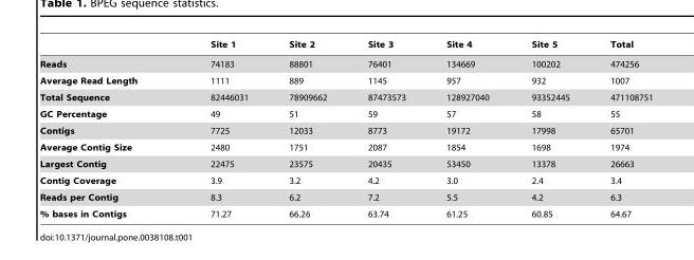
<table><thead><tr><td></td><td>Site 1</td><td>Site 2</td><td>Site 3</td><td>Site 4</td><td>Site 5</td><td>Total</td></tr></thead><tbody><tr><td>Reads</td><td>74183</td><td>88801</td><td>76401</td><td>134669</td><td>100202</td><td>474256</td></tr><tr><td>Average Read Length</td><td>1111</td><td>889</td><td>1145</td><td>957</td><td>932</td><td>1007</td></tr><tr><td>Total Sequence</td><td>82446031</td><td>78909662</td><td>87473573</td><td>128927040</td><td>93352445</td><td>471108751</td></tr><tr><td>GC Percentage</td><td>49</td><td>51</td><td>59</td><td>57</td><td>58</td><td>55</td></tr><tr><td>Contigs</td><td>7725</td><td>12033</td><td>8773</td><td>19172</td><td>17998</td><td>65701</td></tr><tr><td>Average Contig Size</td><td>2480</td><td>1751</td><td>2087</td><td>1854</td><td>1698</td><td>1974</td></tr><tr><td>Largest Contig</td><td>22475</td><td>23575</td><td>20435</td><td>53450</td><td>13378</td><td>26663</td></tr><tr><td>Contig Coverage</td><td>3.9</td><td>3.2</td><td>4.2</td><td>3.0</td><td>2.4</td><td>3.4</td></tr><tr><td>Reads per Contig</td><td>8.3</td><td>6.2</td><td>7.2</td><td>5.5</td><td>4.2</td><td>6.3</td></tr><tr><td>% bases in Contigs</td><td>71.27</td><td>66.26</td><td>63.74</td><td>61.25</td><td>60.85</td><td>64.67</td></tr></tbody></table>